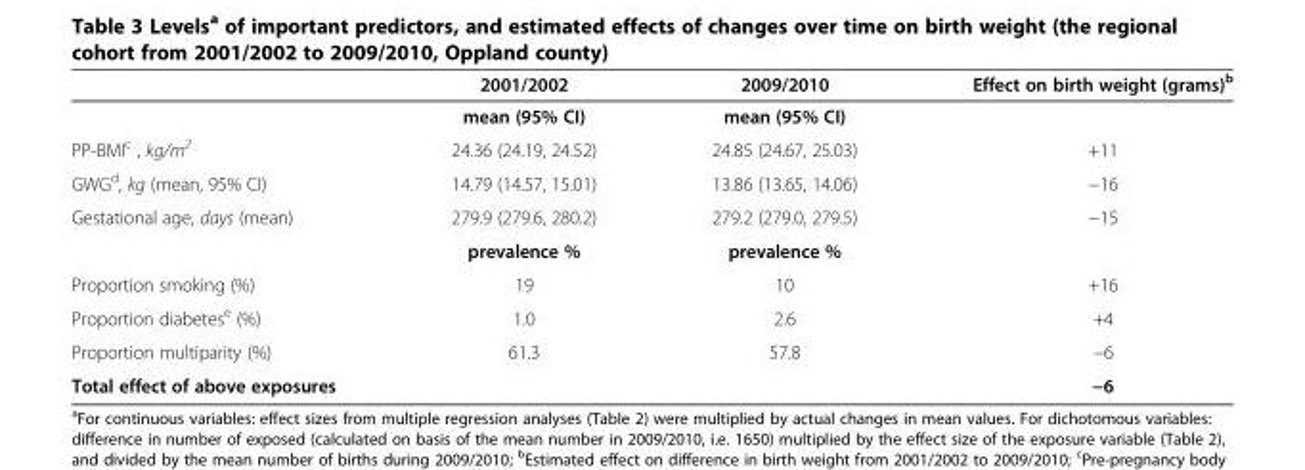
<table><thead><tr><td></td><td>2001/2002</td><td>2009/2010</td><td>Effect on birth weight (grams)<sup>b</sup></td></tr></thead><tbody><tr><td></td><td>mean (95% CI)</td><td>mean (95% CI)</td><td></td></tr><tr><td>PP-BMI<sup>c</sup> , kg/m<sup>2</sup></td><td>24.36 (24.19, 24.52)</td><td>24.85 (24.67, 25.03)</td><td>+11</td></tr><tr><td>GWG<sup>d</sup>, kg (mean, 95% CI)</td><td>14.79 (14.57, 15.01)</td><td>13.86 (13.65, 14.06)</td><td>−16</td></tr><tr><td rowspan="2">Gestational age, days (mean)</td><td>279.9 (279.6, 280.2)</td><td>279.2 (279.0, 279.5)</td><td>−15</td></tr><tr><td>prevalence %</td><td>prevalence %</td><td></td></tr><tr><td>Proportion smoking (%)</td><td>19</td><td>10</td><td>+16</td></tr><tr><td>Proportion diabetes<sup>e</sup> (%)</td><td>1.0</td><td>2.6</td><td>+4</td></tr><tr><td>Proportion multiparity (%)</td><td>61.3</td><td>57.8</td><td>−6</td></tr><tr><td>Total effect of above exposures</td><td></td><td></td><td>−6</td></tr></tbody></table>